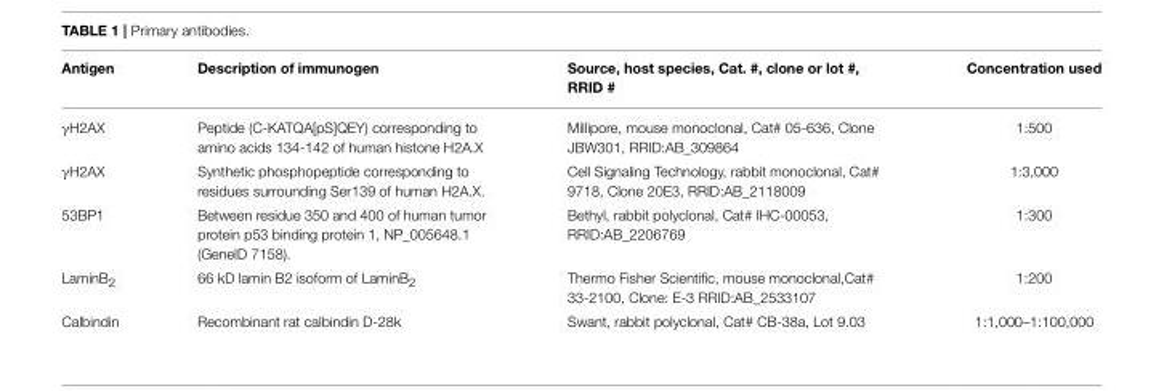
<table><thead><tr><td>Antigen</td><td>Description of immunogen</td><td>Source, host species, Cat. #, clone or lot #, RRID #</td><td>Concentration used</td></tr></thead><tbody><tr><td>γH2AX</td><td>Peptide (C-KATQA[pS]QEY) corresponding to amino acids 134-142 of human histone H2A.X</td><td>Millipore, mouse monoclonal, Cat# 05-636, Clone JBW301, RRID:AB_309864</td><td>1:500</td></tr><tr><td>γH2AX</td><td>Synthetic phosphopeptide corresponding to residues surrounding Ser139 of human H2A.X.</td><td>Cell Signaling Technology, rabbit monoclonal, Cat# 9718, Clone 20E3, RRID:AB_2118009</td><td>1:3,000</td></tr><tr><td>53BP1</td><td>Between residue 350 and 400 of human tumor protein p53 binding protein 1, NP_005648.1 (GeneID 7158).</td><td>Bethyl, rabbit polyclonal, Cat# IHC-00053, RRID:AB_2206769</td><td>1:300</td></tr><tr><td>LaminB<sub>2</sub></td><td>66 kD lamin B2 isoform of LaminB<sub>2</sub></td><td>Thermo Fisher Scientific, mouse monoclonal,Cat# 33-2100, Clone: E-3 RRID:AB_2533107</td><td>1:200</td></tr><tr><td>Calbindin</td><td>Recombinant rat calbindin D-28k</td><td>Swant, rabbit polyclonal, Cat# CB-38a, Lot 9.03</td><td>1:1,000–1:100,000</td></tr></tbody></table>